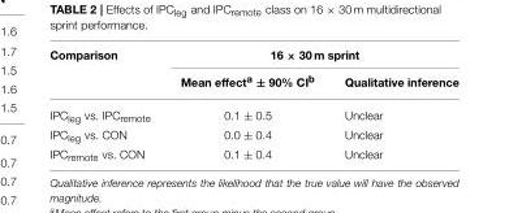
<table><thead><tr><td rowspan="2">Comparison</td><td colspan="2">16 × 30 m sprint</td></tr><tr><td>Mean effect<sup>a</sup> ± 90% CI<sup>b</sup></td><td>Qualitative inference</td></tr></thead><tbody><tr><td>IPC<sub>leg</sub> vs. IPC<sub>remote</sub></td><td>0.1 ± 0.5</td><td>Unclear</td></tr><tr><td>IPC<sub>leg</sub> vs. CON</td><td>0.0 ± 0.4</td><td>Unclear</td></tr><tr><td>IPC<sub>remote</sub> vs. CON</td><td>0.1 ± 0.4</td><td>Unclear</td></tr></tbody></table>